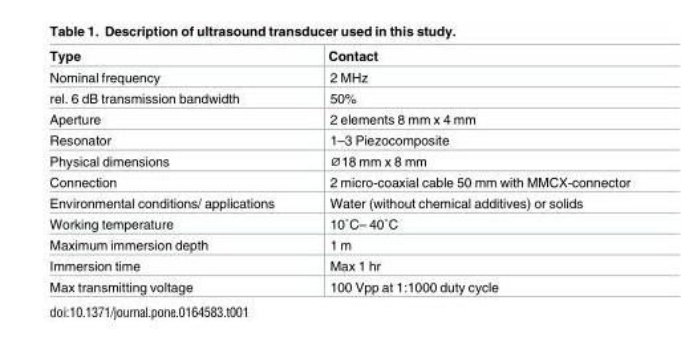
<table><thead><tr><td>Type</td><td>Contact</td></tr></thead><tbody><tr><td>Nominal frequency</td><td>2 MHz</td></tr><tr><td>rel. 6 dB transmission bandwidth</td><td>50%</td></tr><tr><td>Aperture</td><td>2 elements 8 mm x 4 mm</td></tr><tr><td>Resonator</td><td>1–3 Piezocomposite</td></tr><tr><td>Physical dimensions</td><td>⌀18 mm x 8 mm</td></tr><tr><td>Connection</td><td>2 micro-coaxial cable 50 mm with MMCX-connector</td></tr><tr><td>Environmental conditions/ applications</td><td>Water (without chemical additives) or solids</td></tr><tr><td>Working temperature</td><td>10˚C– 40˚C</td></tr><tr><td>Maximum immersion depth</td><td>1 m</td></tr><tr><td>Immersion time</td><td>Max 1 hr</td></tr><tr><td>Max transmitting voltage</td><td>100 Vpp at 1:1000 duty cycle</td></tr></tbody></table>